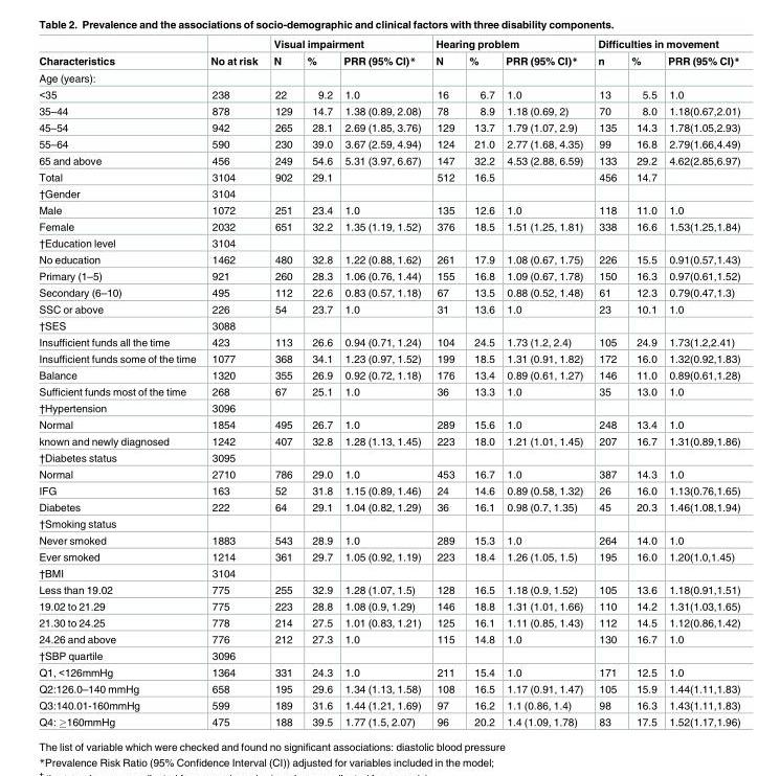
<table><thead><tr><td rowspan="2">Characteristics</td><td rowspan="2">No at risk</td><td colspan="3">Visual impairment</td><td colspan="3">Hearing problem</td><td colspan="3">Difficulties in movement</td></tr><tr><td>N</td><td>%</td><td>PRR (95% CI)*</td><td>N</td><td>%</td><td>PRR (95% CI)*</td><td>n</td><td>%</td><td>PRR (95% CI)*</td></tr></thead><tbody><tr><td colspan="11">Age (years):</td></tr><tr><td>&lt;35</td><td>238</td><td>22</td><td>9.2</td><td>1.0</td><td>16</td><td>6.7</td><td>1.0</td><td>13</td><td>5.5</td><td>1.0</td></tr><tr><td>35–44</td><td>878</td><td>129</td><td>14.7</td><td>1.38 (0.89, 2.08)</td><td>78</td><td>8.9</td><td>1.18 (0.69, 2)</td><td>70</td><td>8.0</td><td>1.18(0.67,2.01)</td></tr><tr><td>45–54</td><td>942</td><td>265</td><td>28.1</td><td>2.69 (1.85, 3.76)</td><td>129</td><td>13.7</td><td>1.79 (1.07, 2.9)</td><td>135</td><td>14.3</td><td>1.78(1.05,2.93)</td></tr><tr><td>55–64</td><td>590</td><td>230</td><td>39.0</td><td>3.67 (2.59, 4.94)</td><td>124</td><td>21.0</td><td>2.77 (1.68, 4.35)</td><td>99</td><td>16.8</td><td>2.79(1.66,4.49)</td></tr><tr><td>65 and above</td><td>456</td><td>249</td><td>54.6</td><td>5.31 (3.97, 6.67)</td><td>147</td><td>32.2</td><td>4.53 (2.88, 6.59)</td><td>133</td><td>29.2</td><td>4.62(2.85,6.97)</td></tr><tr><td>Total</td><td>3104</td><td>902</td><td>29.1</td><td></td><td>512</td><td>16.5</td><td></td><td>456</td><td>14.7</td><td></td></tr><tr><td>†Gender</td><td>3104</td><td></td><td></td><td></td><td></td><td></td><td></td><td></td><td></td><td></td></tr><tr><td>Male</td><td>1072</td><td>251</td><td>23.4</td><td>1.0</td><td>135</td><td>12.6</td><td>1.0</td><td>118</td><td>11.0</td><td>1.0</td></tr><tr><td>Female</td><td>2032</td><td>651</td><td>32.2</td><td>1.35 (1.19, 1.52)</td><td>376</td><td>18.5</td><td>1.51 (1.25, 1.81)</td><td>338</td><td>16.6</td><td>1.53(1.25,1.84)</td></tr><tr><td>†Education level</td><td>3104</td><td></td><td></td><td></td><td></td><td></td><td></td><td></td><td></td><td></td></tr><tr><td>No education</td><td>1462</td><td>480</td><td>32.8</td><td>1.22 (0.88, 1.62)</td><td>261</td><td>17.9</td><td>1.08 (0.67, 1.75)</td><td>226</td><td>15.5</td><td>0.91(0.57,1.43)</td></tr><tr><td>Primary (1–5)</td><td>921</td><td>260</td><td>28.3</td><td>1.06 (0.76, 1.44)</td><td>155</td><td>16.8</td><td>1.09 (0.67, 1.78)</td><td>150</td><td>16.3</td><td>0.97(0.61,1.52)</td></tr><tr><td>Secondary (6–10)</td><td>495</td><td>112</td><td>22.6</td><td>0.83 (0.57, 1.18)</td><td>67</td><td>13.5</td><td>0.88 (0.52, 1.48)</td><td>61</td><td>12.3</td><td>0.79(0.47,1.3)</td></tr><tr><td>SSC or above</td><td>226</td><td>54</td><td>23.7</td><td>1.0</td><td>31</td><td>13.6</td><td>1.0</td><td>23</td><td>10.1</td><td>1.0</td></tr><tr><td>†SES</td><td>3088</td><td></td><td></td><td></td><td></td><td></td><td></td><td></td><td></td><td></td></tr><tr><td>Insufficient funds all the time</td><td>423</td><td>113</td><td>26.6</td><td>0.94 (0.71, 1.24)</td><td>104</td><td>24.5</td><td>1.73 (1.2, 2.4)</td><td>105</td><td>24.9</td><td>1.73(1.2,2.41)</td></tr><tr><td>Insufficient funds some of the time</td><td>1077</td><td>368</td><td>34.1</td><td>1.23 (0.97, 1.52)</td><td>199</td><td>18.5</td><td>1.31 (0.91, 1.82)</td><td>172</td><td>16.0</td><td>1.32(0.92,1.83)</td></tr><tr><td>Balance</td><td>1320</td><td>355</td><td>26.9</td><td>0.92 (0.72, 1.18)</td><td>176</td><td>13.4</td><td>0.89 (0.61, 1.27)</td><td>146</td><td>11.0</td><td>0.89(0.61,1.28)</td></tr><tr><td>Sufficient funds most of the time</td><td>268</td><td>67</td><td>25.1</td><td>1.0</td><td>36</td><td>13.3</td><td>1.0</td><td>35</td><td>13.0</td><td>1.0</td></tr><tr><td>†Hypertension</td><td>3096</td><td></td><td></td><td></td><td></td><td></td><td></td><td></td><td></td><td></td></tr><tr><td>Normal</td><td>1854</td><td>495</td><td>26.7</td><td>1.0</td><td>289</td><td>15.6</td><td>1.0</td><td>248</td><td>13.4</td><td>1.0</td></tr><tr><td>known and newly diagnosed</td><td>1242</td><td>407</td><td>32.8</td><td>1.28 (1.13, 1.45)</td><td>223</td><td>18.0</td><td>1.21 (1.01, 1.45)</td><td>207</td><td>16.7</td><td>1.31(0.89,1.86)</td></tr><tr><td>†Diabetes status</td><td>3095</td><td></td><td></td><td></td><td></td><td></td><td></td><td></td><td></td><td></td></tr><tr><td>Normal</td><td>2710</td><td>786</td><td>29.0</td><td>1.0</td><td>453</td><td>16.7</td><td>1.0</td><td>387</td><td>14.3</td><td>1.0</td></tr><tr><td>IFG</td><td>163</td><td>52</td><td>31.8</td><td>1.15 (0.89, 1.46)</td><td>24</td><td>14.6</td><td>0.89 (0.58, 1.32)</td><td>26</td><td>16.0</td><td>1.13(0.76,1.65)</td></tr><tr><td>Diabetes</td><td>222</td><td>64</td><td>29.1</td><td>1.04 (0.82, 1.29)</td><td>36</td><td>16.1</td><td>0.98 (0.7, 1.35)</td><td>45</td><td>20.3</td><td>1.46(1.08,1.94)</td></tr><tr><td colspan="11">†Smoking status</td></tr><tr><td>Never smoked</td><td>1883</td><td>543</td><td>28.9</td><td>1.0</td><td>289</td><td>15.3</td><td>1.0</td><td>264</td><td>14.0</td><td>1.0</td></tr><tr><td>Ever smoked</td><td>1214</td><td>361</td><td>29.7</td><td>1.05 (0.92, 1.19)</td><td>223</td><td>18.4</td><td>1.26 (1.05, 1.5)</td><td>195</td><td>16.0</td><td>1.20(1.0,1.45)</td></tr><tr><td>†BMI</td><td>3104</td><td></td><td></td><td></td><td></td><td></td><td></td><td></td><td></td><td></td></tr><tr><td>Less than 19.02</td><td>775</td><td>255</td><td>32.9</td><td>1.28 (1.07, 1.5)</td><td>128</td><td>16.5</td><td>1.18 (0.9, 1.52)</td><td>105</td><td>13.6</td><td>1.18(0.91,1.51)</td></tr><tr><td>19.02 to 21.29</td><td>775</td><td>223</td><td>28.8</td><td>1.08 (0.9, 1.29)</td><td>146</td><td>18.8</td><td>1.31 (1.01, 1.66)</td><td>110</td><td>14.2</td><td>1.31(1.03,1.65)</td></tr><tr><td>21.30 to 24.25</td><td>778</td><td>214</td><td>27.5</td><td>1.01 (0.83, 1.21)</td><td>125</td><td>16.1</td><td>1.11 (0.85, 1.43)</td><td>112</td><td>14.5</td><td>1.12(0.86,1.42)</td></tr><tr><td>24.26 and above</td><td>776</td><td>212</td><td>27.3</td><td>1.0</td><td>115</td><td>14.8</td><td>1.0</td><td>130</td><td>16.7</td><td>1.0</td></tr><tr><td>†SBP quartile</td><td>3096</td><td></td><td></td><td></td><td></td><td></td><td></td><td></td><td></td><td></td></tr><tr><td>Q1, &lt;126mmHg</td><td>1364</td><td>331</td><td>24.3</td><td>1.0</td><td>211</td><td>15.4</td><td>1.0</td><td>171</td><td>12.5</td><td>1.0</td></tr><tr><td>Q2:126.0–140 mmHg</td><td>658</td><td>195</td><td>29.6</td><td>1.34 (1.13, 1.58)</td><td>108</td><td>16.5</td><td>1.17 (0.91, 1.47)</td><td>105</td><td>15.9</td><td>1.44(1.11,1.83)</td></tr><tr><td>Q3:140.01-160mmHg</td><td>599</td><td>189</td><td>31.6</td><td>1.44 (1.21, 1.69)</td><td>97</td><td>16.2</td><td>1.1 (0.86, 1.4)</td><td>98</td><td>16.3</td><td>1.43(1.11,1.83)</td></tr><tr><td>Q4: ≥160mmHg</td><td>475</td><td>188</td><td>39.5</td><td>1.77 (1.5, 2.07)</td><td>96</td><td>20.2</td><td>1.4 (1.09, 1.78)</td><td>83</td><td>17.5</td><td>1.52(1.17,1.96)</td></tr></tbody></table>